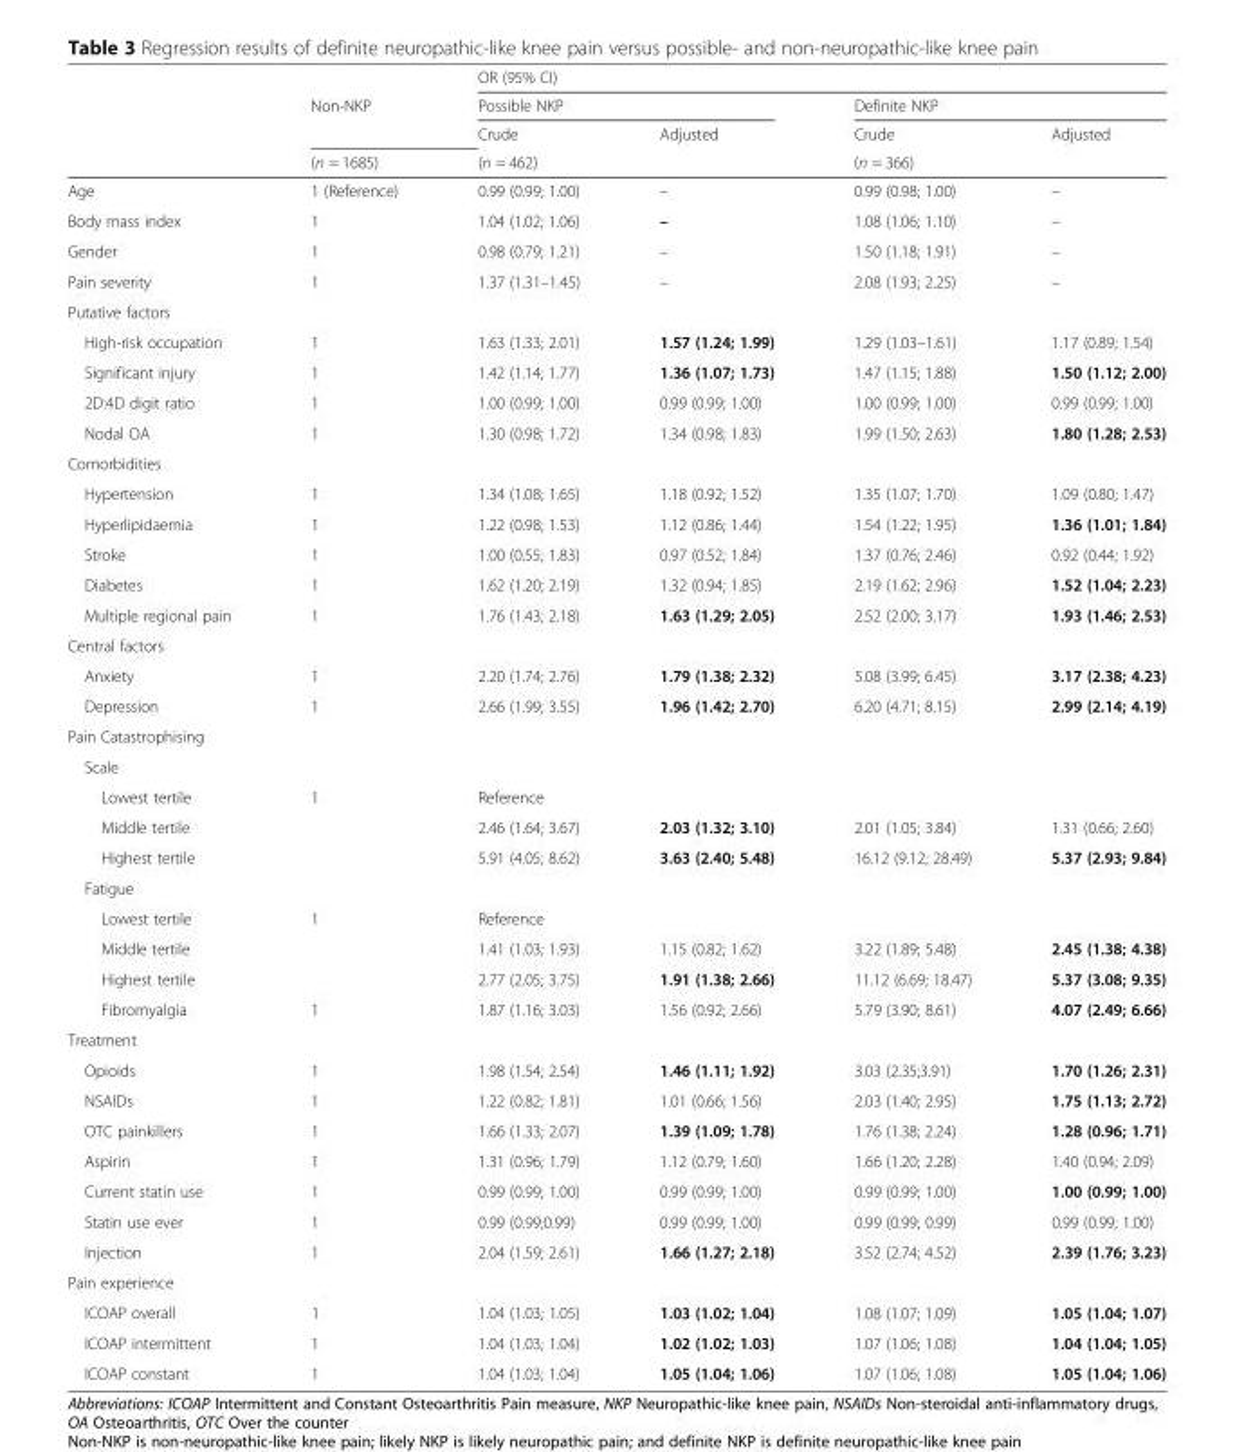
<table><thead><tr><td rowspan="4"></td><td rowspan="4">Non-NKP (n = 1685)</td><td colspan="4">OR (95% CI)</td></tr><tr><td colspan="2">Possible NKP</td><td colspan="2">Definite NKP</td></tr><tr><td rowspan="2">Crude (n = 462)</td><td rowspan="2">Adjusted</td><td rowspan="2">Crude (n = 366)</td><td rowspan="2">Adjusted</td></tr><tr></tr></thead><tbody><tr><td>Age</td><td>1 (Reference)</td><td>0.99 (0.99; 1.00)</td><td>–</td><td>0.99 (0.98; 1.00)</td><td>–</td></tr><tr><td>Body mass index</td><td>1</td><td>1.04 (1.02; 1.06)</td><td>–</td><td>1.08 (1.06; 1.10)</td><td>–</td></tr><tr><td>Gender</td><td>1</td><td>0.98 (0.79; 1.21)</td><td>–</td><td>1.50 (1.18; 1.91)</td><td>–</td></tr><tr><td>Pain severity</td><td>1</td><td>1.37 (1.31–1.45)</td><td>–</td><td>2.08 (1.93; 2.25)</td><td>–</td></tr><tr><td colspan="6">Putative factors</td></tr><tr><td>High-risk occupation</td><td>1</td><td>1.63 (1.33; 2.01)</td><td>1.57 (1.24; 1.99)</td><td>1.29 (1.03–1.61)</td><td>1.17 (0.89; 1.54)</td></tr><tr><td>Significant injury</td><td>1</td><td>1.42 (1.14; 1.77)</td><td>1.36 (1.07; 1.73)</td><td>1.47 (1.15; 1.88)</td><td>1.50 (1.12; 2.00)</td></tr><tr><td>2D:4D digit ratio</td><td>1</td><td>1.00 (0.99; 1.00)</td><td>0.99 (0.99; 1.00)</td><td>1.00 (0.99; 1.00)</td><td>0.99 (0.99; 1.00)</td></tr><tr><td>Nodal OA</td><td>1</td><td>1.30 (0.98; 1.72)</td><td>1.34 (0.98; 1.83)</td><td>1.99 (1.50; 2.63)</td><td>1.80 (1.28; 2.53)</td></tr><tr><td colspan="6">Comorbidities</td></tr><tr><td>Hypertension</td><td>1</td><td>1.34 (1.08; 1.65)</td><td>1.18 (0.92; 1.52)</td><td>1.35 (1.07; 1.70)</td><td>1.09 (0.80; 1.47)</td></tr><tr><td>Hyperlipidaemia</td><td>1</td><td>1.22 (0.98; 1.53)</td><td>1.12 (0.86; 1.44)</td><td>1.54 (1.22; 1.95)</td><td>1.36 (1.01; 1.84)</td></tr><tr><td>Stroke</td><td>1</td><td>1.00 (0.55; 1.83)</td><td>0.97 (0.52; 1.84)</td><td>1.37 (0.76; 2.46)</td><td>0.92 (0.44; 1.92)</td></tr><tr><td>Diabetes</td><td>1</td><td>1.62 (1.20; 2.19)</td><td>1.32 (0.94; 1.85)</td><td>2.19 (1.62; 2.96)</td><td>1.52 (1.04; 2.23)</td></tr><tr><td>Multiple regional pain</td><td>1</td><td>1.76 (1.43; 2.18)</td><td>1.63 (1.29; 2.05)</td><td>2.52 (2.00; 3.17)</td><td>1.93 (1.46; 2.53)</td></tr><tr><td colspan="6">Central factors</td></tr><tr><td>Anxiety</td><td>1</td><td>2.20 (1.74; 2.76)</td><td>1.79 (1.38; 2.32)</td><td>5.08 (3.99; 6.45)</td><td>3.17 (2.38; 4.23)</td></tr><tr><td>Depression</td><td>1</td><td>2.66 (1.99; 3.55)</td><td>1.96 (1.42; 2.70)</td><td>6.20 (4.71; 8.15)</td><td>2.99 (2.14; 4.19)</td></tr><tr><td colspan="6">Pain Catastrophising</td></tr><tr><td colspan="6">Scale</td></tr><tr><td>Lowest tertile</td><td>1</td><td>Reference</td><td></td><td></td><td></td></tr><tr><td>Middle tertile</td><td></td><td>2.46 (1.64; 3.67)</td><td>2.03 (1.32; 3.10)</td><td>2.01 (1.05; 3.84)</td><td>1.31 (0.66; 2.60)</td></tr><tr><td>Highest tertile</td><td></td><td>5.91 (4.05; 8.62)</td><td>3.63 (2.40; 5.48)</td><td>16.12 (9.12; 28.49)</td><td>5.37 (2.93; 9.84)</td></tr><tr><td colspan="6">Fatigue</td></tr><tr><td>Lowest tertile</td><td>1</td><td>Reference</td><td></td><td></td><td></td></tr><tr><td>Middle tertile</td><td></td><td>1.41 (1.03; 1.93)</td><td>1.15 (0.82; 1.62)</td><td>3.22 (1.89; 5.48)</td><td>2.45 (1.38; 4.38)</td></tr><tr><td>Highest tertile</td><td></td><td>2.77 (2.05; 3.75)</td><td>1.91 (1.38; 2.66)</td><td>11.12 (6.69; 18.47)</td><td>5.37 (3.08; 9.35)</td></tr><tr><td>Fibromyalgia</td><td>1</td><td>1.87 (1.16; 3.03)</td><td>1.56 (0.92; 2.66)</td><td>5.79 (3.90; 8.61)</td><td>4.07 (2.49; 6.66)</td></tr><tr><td colspan="6">Treatment</td></tr><tr><td>Opioids</td><td>1</td><td>1.98 (1.54; 2.54)</td><td>1.46 (1.11; 1.92)</td><td>3.03 (2.35;3.91)</td><td>1.70 (1.26; 2.31)</td></tr><tr><td>NSAIDs</td><td>1</td><td>1.22 (0.82; 1.81)</td><td>1.01 (0.66; 1.56)</td><td>2.03 (1.40; 2.95)</td><td>1.75 (1.13; 2.72)</td></tr><tr><td>OTC painkillers</td><td>1</td><td>1.66 (1.33; 2.07)</td><td>1.39 (1.09; 1.78)</td><td>1.76 (1.38; 2.24)</td><td>1.28 (0.96; 1.71)</td></tr><tr><td>Aspirin</td><td>1</td><td>1.31 (0.96; 1.79)</td><td>1.12 (0.79; 1.60)</td><td>1.66 (1.20; 2.28)</td><td>1.40 (0.94; 2.09)</td></tr><tr><td>Current statin use</td><td>1</td><td>0.99 (0.99; 1.00)</td><td>0.99 (0.99; 1.00)</td><td>0.99 (0.99; 1.00)</td><td>1.00 (0.99; 1.00)</td></tr><tr><td>Statin use ever</td><td>1</td><td>0.99 (0.99;0.99)</td><td>0.99 (0.99; 1.00)</td><td>0.99 (0.99; 0.99)</td><td>0.99 (0.99; 1.00)</td></tr><tr><td>Injection</td><td>1</td><td>2.04 (1.59; 2.61)</td><td>1.66 (1.27; 2.18)</td><td>3.52 (2.74; 4.52)</td><td>2.39 (1.76; 3.23)</td></tr><tr><td colspan="6">Pain experience</td></tr><tr><td>ICOAP overall</td><td>1</td><td>1.04 (1.03; 1.05)</td><td>1.03 (1.02; 1.04)</td><td>1.08 (1.07; 1.09)</td><td>1.05 (1.04; 1.07)</td></tr><tr><td>ICOAP intermittent</td><td>1</td><td>1.04 (1.03; 1.04)</td><td>1.02 (1.02; 1.03)</td><td>1.07 (1.06; 1.08)</td><td>1.04 (1.04; 1.05)</td></tr><tr><td>ICOAP constant</td><td>1</td><td>1.04 (1.03; 1.04)</td><td>1.05 (1.04; 1.06)</td><td>1.07 (1.06; 1.08)</td><td>1.05 (1.04; 1.06)</td></tr></tbody></table>